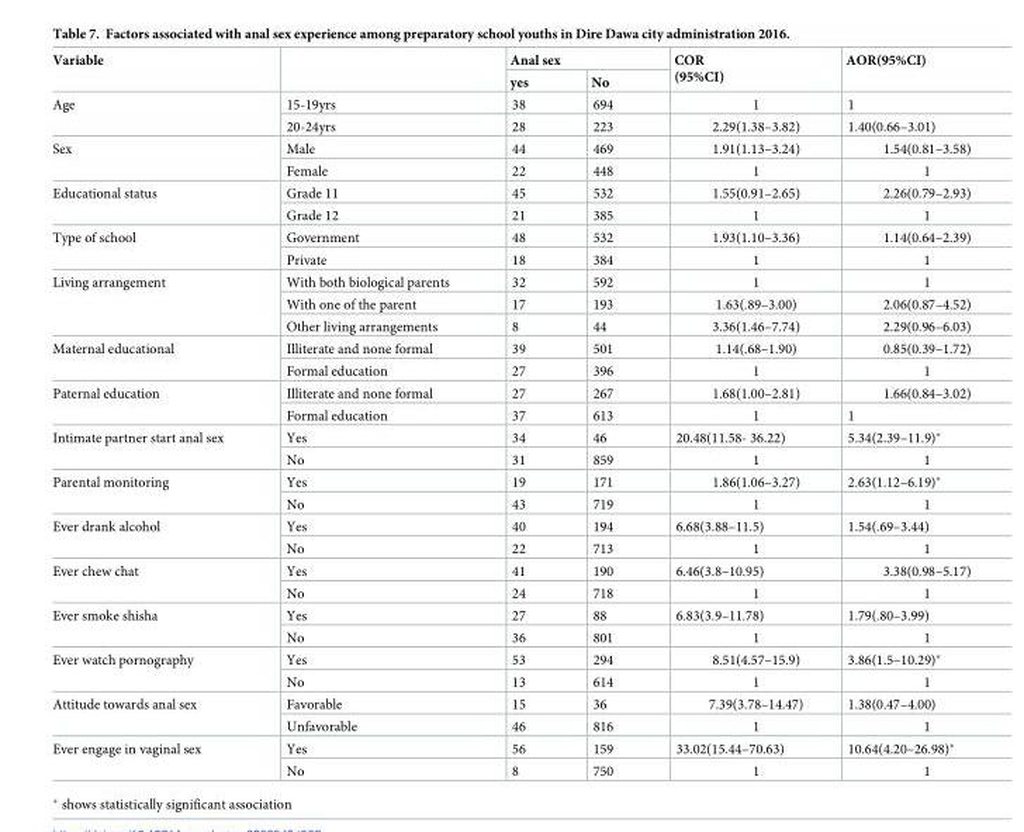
<table><thead><tr><td rowspan="2">Variable</td><td rowspan="2"></td><td colspan="2">Anal sex</td><td rowspan="2">COR (95%CI)</td><td rowspan="2">AOR(95%CI)</td></tr><tr><td>yes</td><td>No</td></tr></thead><tbody><tr><td rowspan="2">Age</td><td>15-19yrs</td><td>38</td><td>694</td><td>1</td><td>1</td></tr><tr><td>20-24yrs</td><td>28</td><td>223</td><td>2.29(1.38–3.82)</td><td>1.40(0.66–3.01)</td></tr><tr><td rowspan="2">Sex</td><td>Male</td><td>44</td><td>469</td><td>1.91(1.13–3.24)</td><td>1.54(0.81–3.58)</td></tr><tr><td>Female</td><td>22</td><td>448</td><td>1</td><td>1</td></tr><tr><td rowspan="2">Educational status</td><td>Grade 11</td><td>45</td><td>532</td><td>1.55(0.91–2.65)</td><td>2.26(0.79–2.93)</td></tr><tr><td>Grade 12</td><td>21</td><td>385</td><td>1</td><td>1</td></tr><tr><td rowspan="2">Type of school</td><td>Government</td><td>48</td><td>532</td><td>1.93(1.10–3.36)</td><td>1.14(0.64–2.39)</td></tr><tr><td>Private</td><td>18</td><td>384</td><td>1</td><td>1</td></tr><tr><td rowspan="3">Living arrangement</td><td>With both biological parents</td><td>32</td><td>592</td><td>1</td><td>1</td></tr><tr><td>With one of the parent</td><td>17</td><td>193</td><td>1.63(.89–3.00)</td><td>2.06(0.87–4.52)</td></tr><tr><td>Other living arrangements</td><td>8</td><td>44</td><td>3.36(1.46–7.74)</td><td>2.29(0.96–6.03)</td></tr><tr><td rowspan="2">Maternal educational</td><td>Illiterate and none formal</td><td>39</td><td>501</td><td>1.14(.68–1.90)</td><td>0.85(0.39–1.72)</td></tr><tr><td>Formal education</td><td>27</td><td>396</td><td>1</td><td>1</td></tr><tr><td rowspan="2">Paternal education</td><td>Illiterate and none formal</td><td>27</td><td>267</td><td>1.68(1.00–2.81)</td><td>1.66(0.84–3.02)</td></tr><tr><td>Formal education</td><td>37</td><td>613</td><td>1</td><td>1</td></tr><tr><td rowspan="2">Intimate partner start anal sex</td><td>Yes</td><td>34</td><td>46</td><td>20.48(11.58- 36.22)</td><td>5.34(2.39–11.9)*</td></tr><tr><td>No</td><td>31</td><td>859</td><td>1</td><td>1</td></tr><tr><td rowspan="2">Parental monitoring</td><td>Yes</td><td>19</td><td>171</td><td>1.86(1.06–3.27)</td><td>2.63(1.12–6.19)*</td></tr><tr><td>No</td><td>43</td><td>719</td><td>1</td><td>1</td></tr><tr><td rowspan="2">Ever drank alcohol</td><td>Yes</td><td>40</td><td>194</td><td>6.68(3.88–11.5)</td><td>1.54(.69–3.44)</td></tr><tr><td>No</td><td>22</td><td>713</td><td>1</td><td>1</td></tr><tr><td rowspan="2">Ever chew chat</td><td>Yes</td><td>41</td><td>190</td><td>6.46(3.8–10.95)</td><td>3.38(0.98–5.17)</td></tr><tr><td>No</td><td>24</td><td>718</td><td>1</td><td>1</td></tr><tr><td rowspan="2">Ever smoke shisha</td><td>Yes</td><td>27</td><td>88</td><td>6.83(3.9–11.78)</td><td>1.79(.80–3.99)</td></tr><tr><td>No</td><td>36</td><td>801</td><td>1</td><td>1</td></tr><tr><td rowspan="2">Ever watch pornography</td><td>Yes</td><td>53</td><td>294</td><td>8.51(4.57–15.9)</td><td>3.86(1.5–10.29)*</td></tr><tr><td>No</td><td>13</td><td>614</td><td>1</td><td>1</td></tr><tr><td rowspan="2">Attitude towards anal sex</td><td>Favorable</td><td>15</td><td>36</td><td>7.39(3.78–14.47)</td><td>1.38(0.47–4.00)</td></tr><tr><td>Unfavorable</td><td>46</td><td>816</td><td>1</td><td>1</td></tr><tr><td rowspan="2">Ever engage in vaginal sex</td><td>Yes</td><td>56</td><td>159</td><td>33.02(15.44–70.63)</td><td>10.64(4.20–26.98)*</td></tr><tr><td>No</td><td>8</td><td>750</td><td>1</td><td>1</td></tr></tbody></table>